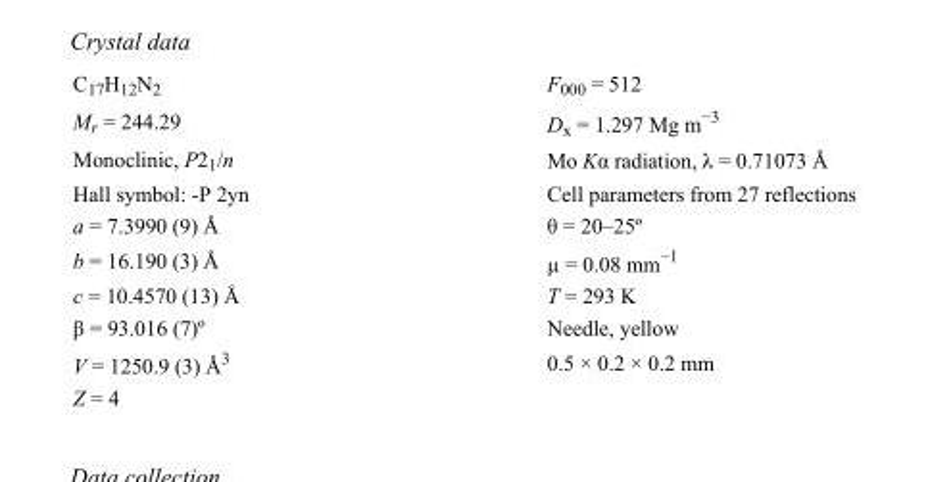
<table><tbody><tr><td>C<sub>17</sub>H<sub>12</sub>N<sub>2</sub></td><td>F000 = 512</td></tr><tr><td>M<sub>r</sub> = 244.29</td><td>D<sub>x</sub> = 1.297 Mg m<sup>−3</sup></td></tr><tr><td>Monoclinic, P2<sub>1</sub>/n</td><td>Mo Kα radiation, λ = 0.71073 Å</td></tr><tr><td>Hall symbol: -P 2yn</td><td>Cell parameters from 27 reflections</td></tr><tr><td>a = 7.3990 (9) Å</td><td>θ = 20–25º</td></tr><tr><td>b = 16.190 (3) Å</td><td>µ = 0.08 mm<sup>−1</sup></td></tr><tr><td>c = 10.4570 (13) Å</td><td>T = 293 K</td></tr><tr><td>β = 93.016 (7)º</td><td>Needle, yellow</td></tr><tr><td>V = 1250.9 (3) Å<sup>3</sup></td><td>0.5 × 0.2 × 0.2 mm</td></tr><tr><td>Z = 4</td><td></td></tr></tbody></table>